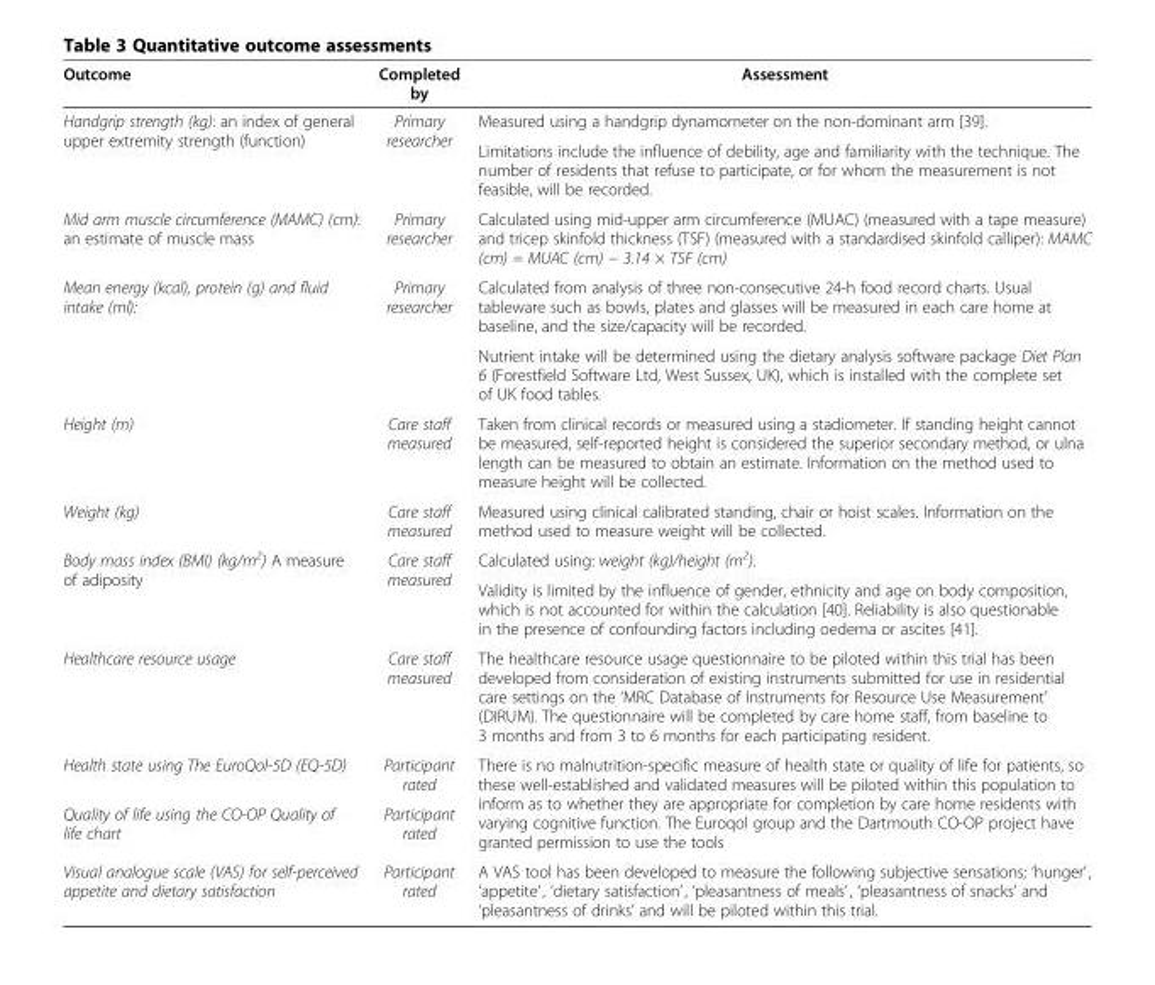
<table><thead><tr><td>Outcome</td><td>Completed by</td><td>Assessment</td></tr></thead><tbody><tr><td rowspan="2">Handgrip strength (kg): an index of general upper extremity strength (function)</td><td rowspan="2">Primary researcher</td><td>Measured using a handgrip dynamometer on the non-dominant arm [39].</td></tr><tr><td>Limitations include the influence of debility, age and familiarity with the technique. The number of residents that refuse to participate, or for whom the measurement is not feasible, will be recorded.</td></tr><tr><td>Mid arm muscle circumference (MAMC) (cm): an estimate of muscle mass</td><td>Primary researcher</td><td>Calculated using mid-upper arm circumference (MUAC) (measured with a tape measure) and tricep skinfold thickness (TSF) (measured with a standardised skinfold calliper): MAMC (cm) = MUAC (cm) − 3.14 × TSF (cm)</td></tr><tr><td rowspan="2">Mean energy (kcal), protein (g) and fluid intake (ml):</td><td rowspan="2">Primary researcher</td><td>Calculated from analysis of three non-consecutive 24-h food record charts. Usual tableware such as bowls, plates and glasses will be measured in each care home at baseline, and the size/capacity will be recorded.</td></tr><tr><td>Nutrient intake will be determined using the dietary analysis software package Diet Plan 6 (Forestfield Software Ltd, West Sussex, UK), which is installed with the complete set of UK food tables.</td></tr><tr><td>Height (m)</td><td>Care staff measured</td><td>Taken from clinical records or measured using a stadiometer. If standing height cannot be measured, self-reported height is considered the superior secondary method, or ulna length can be measured to obtain an estimate. Information on the method used to measure height will be collected.</td></tr><tr><td>Weight (kg)</td><td>Care staff measured</td><td>Measured using clinical calibrated standing, chair or hoist scales. Information on the method used to measure weight will be collected.</td></tr><tr><td rowspan="2">Body mass index (BMI) (kg/m<sup>2</sup>) A measure of adiposity</td><td rowspan="2">Care staff measured</td><td>Calculated using: weight (kg)/height (m<sup>2</sup>).</td></tr><tr><td>Validity is limited by the influence of gender, ethnicity and age on body composition, which is not accounted for within the calculation [40]. Reliability is also questionable in the presence of confounding factors including oedema or ascites [41].</td></tr><tr><td>Healthcare resource usage</td><td>Care staff measured</td><td>The healthcare resource usage questionnaire to be piloted within this trial has been developed from consideration of existing instruments submitted for use in residential care settings on the ‘MRC Database of Instruments for Resource Use Measurement’ (DIRUM). The questionnaire will be completed by care home staff, from baseline to 3 months and from 3 to 6 months for each participating resident.</td></tr><tr><td>Health state using The EuroQol-5D (EQ-5D)</td><td>Participant rated</td><td rowspan="2">There is no malnutrition-specific measure of health state or quality of life for patients, so these well-established and validated measures will be piloted within this population to inform as to whether they are appropriate for completion by care home residents with varying cognitive function. The Euroqol group and the Dartmouth CO-OP project have granted permission to use the tools</td></tr><tr><td>Quality of life using the CO-OP Quality of life chart</td><td>Participant rated</td></tr><tr><td>Visual analogue scale (VAS) for self-perceived appetite and dietary satisfaction</td><td>Participant rated</td><td>A VAS tool has been developed to measure the following subjective sensations; ‘hunger’, ‘appetite’, ‘dietary satisfaction’, ‘pleasantness of meals’, ‘pleasantness of snacks’ and ‘pleasantness of drinks’ and will be piloted within this trial.</td></tr></tbody></table>